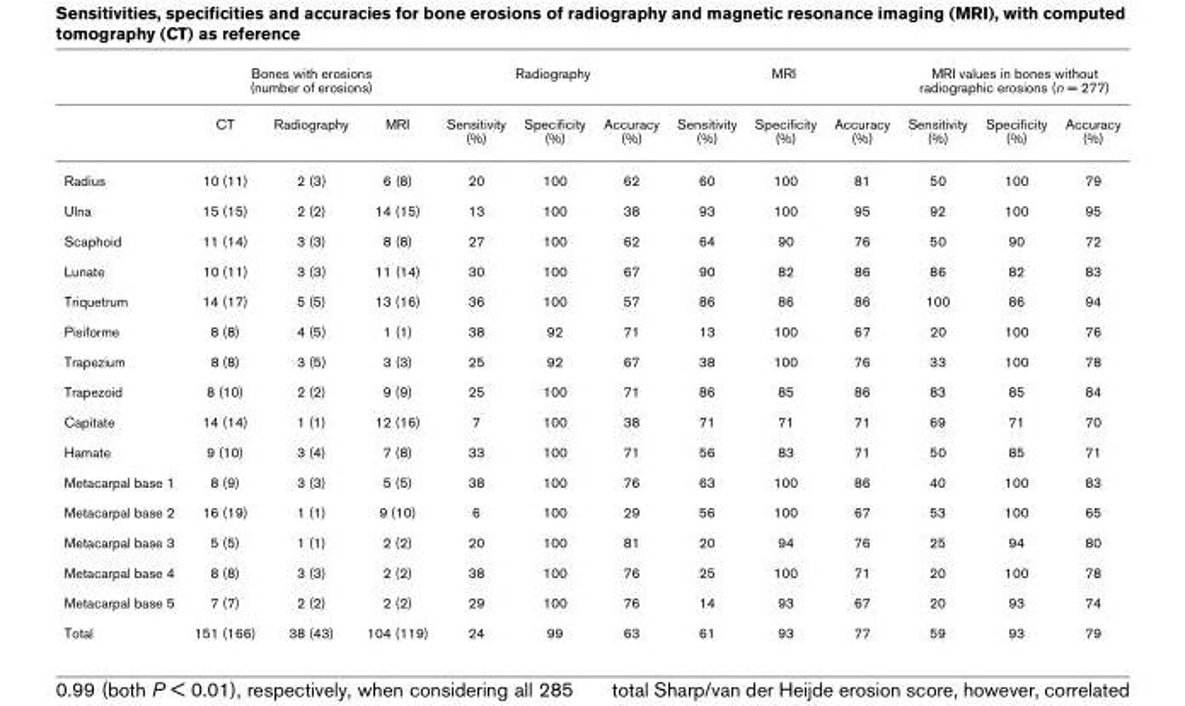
<table><thead><tr><td rowspan="2"></td><td colspan="3">Bones with erosions (number of erosions)</td><td colspan="3">Radiography</td><td colspan="3">MRI</td><td colspan="3">MRI values in bones without radiographic erosions (n = 277)</td></tr><tr><td>CT</td><td>Radiography</td><td>MRI</td><td>Sensitivity (%)</td><td>Specificity (%)</td><td>Accuracy (%)</td><td>Sensitivity (%)</td><td>Specificity (%)</td><td>Accuracy (%)</td><td>Sensitivity (%)</td><td>Specificity (%)</td><td>Accuracy (%)</td></tr></thead><tbody><tr><td>Radius</td><td>10 (11)</td><td>2 (3)</td><td>6 (8)</td><td>20</td><td>100</td><td>62</td><td>60</td><td>100</td><td>81</td><td>50</td><td>100</td><td>79</td></tr><tr><td>Ulna</td><td>15 (15)</td><td>2 (2)</td><td>14 (15)</td><td>13</td><td>100</td><td>38</td><td>93</td><td>100</td><td>95</td><td>92</td><td>100</td><td>95</td></tr><tr><td>Scaphoid</td><td>11 (14)</td><td>3 (3)</td><td>8 (8)</td><td>27</td><td>100</td><td>62</td><td>64</td><td>90</td><td>76</td><td>50</td><td>90</td><td>72</td></tr><tr><td>Lunate</td><td>10 (11)</td><td>3 (3)</td><td>11 (14)</td><td>30</td><td>100</td><td>67</td><td>90</td><td>82</td><td>86</td><td>86</td><td>82</td><td>83</td></tr><tr><td>Triquetrum</td><td>14 (17)</td><td>5 (5)</td><td>13 (16)</td><td>36</td><td>100</td><td>57</td><td>86</td><td>86</td><td>86</td><td>100</td><td>86</td><td>94</td></tr><tr><td>Pisiforme</td><td>8 (8)</td><td>4 (5)</td><td>1 (1)</td><td>38</td><td>92</td><td>71</td><td>13</td><td>100</td><td>67</td><td>20</td><td>100</td><td>76</td></tr><tr><td>Trapezium</td><td>8 (8)</td><td>3 (5)</td><td>3 (3)</td><td>25</td><td>92</td><td>67</td><td>38</td><td>100</td><td>76</td><td>33</td><td>100</td><td>78</td></tr><tr><td>Trapezoid</td><td>8 (10)</td><td>2 (2)</td><td>9 (9)</td><td>25</td><td>100</td><td>71</td><td>86</td><td>85</td><td>86</td><td>83</td><td>85</td><td>84</td></tr><tr><td>Capitate</td><td>14 (14)</td><td>1 (1)</td><td>12 (16)</td><td>7</td><td>100</td><td>38</td><td>71</td><td>71</td><td>71</td><td>69</td><td>71</td><td>70</td></tr><tr><td>Hamate</td><td>9 (10)</td><td>3 (4)</td><td>7 (8)</td><td>33</td><td>100</td><td>71</td><td>56</td><td>83</td><td>71</td><td>50</td><td>85</td><td>71</td></tr><tr><td>Metacarpal base 1</td><td>8 (9)</td><td>3 (3)</td><td>5 (5)</td><td>38</td><td>100</td><td>76</td><td>63</td><td>100</td><td>86</td><td>40</td><td>100</td><td>83</td></tr><tr><td>Metacarpal base 2</td><td>16 (19)</td><td>1 (1)</td><td>9 (10)</td><td>6</td><td>100</td><td>29</td><td>56</td><td>100</td><td>67</td><td>53</td><td>100</td><td>65</td></tr><tr><td>Metacarpal base 3</td><td>5 (5)</td><td>1 (1)</td><td>2 (2)</td><td>20</td><td>100</td><td>81</td><td>20</td><td>94</td><td>76</td><td>25</td><td>94</td><td>80</td></tr><tr><td>Metacarpal base 4</td><td>8 (8)</td><td>3 (3)</td><td>2 (2)</td><td>38</td><td>100</td><td>76</td><td>25</td><td>100</td><td>71</td><td>20</td><td>100</td><td>78</td></tr><tr><td>Metacarpal base 5</td><td>7 (7)</td><td>2 (2)</td><td>2 (2)</td><td>29</td><td>100</td><td>76</td><td>14</td><td>93</td><td>67</td><td>20</td><td>93</td><td>74</td></tr><tr><td>Total</td><td>151 (166)</td><td>38 (43)</td><td>104 (119)</td><td>24</td><td>99</td><td>63</td><td>61</td><td>93</td><td>77</td><td>59</td><td>93</td><td>79</td></tr></tbody></table>